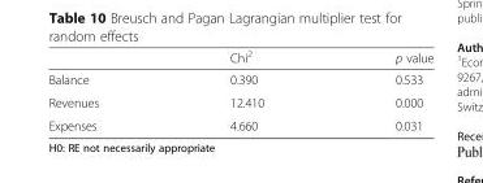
<table><thead><tr><td></td><td>Chi<sup>2</sup></td><td>p value</td></tr></thead><tbody><tr><td>Balance</td><td>0.390</td><td>0.533</td></tr><tr><td>Revenues</td><td>12.410</td><td>0.000</td></tr><tr><td>Expenses</td><td>4.660</td><td>0.031</td></tr></tbody></table>